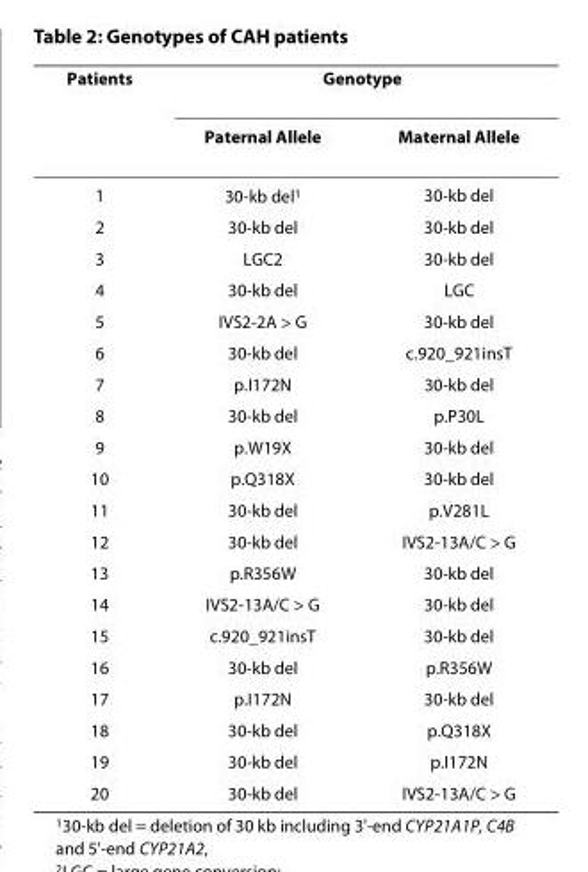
<table><thead><tr><td rowspan="2">Patients</td><td colspan="2">Genotype</td></tr><tr><td>Paternal Allele</td><td>Maternal Allele</td></tr></thead><tbody><tr><td>1</td><td>30-kb del<sup>1</sup></td><td>30-kb del</td></tr><tr><td>2</td><td>30-kb del</td><td>30-kb del</td></tr><tr><td>3</td><td>LGC2</td><td>30-kb del</td></tr><tr><td>4</td><td>30-kb del</td><td>LGC</td></tr><tr><td>5</td><td>IVS2-2A &gt; G</td><td>30-kb del</td></tr><tr><td>6</td><td>30-kb del</td><td>c.920_921insT</td></tr><tr><td>7</td><td>p.I172N</td><td>30-kb del</td></tr><tr><td>8</td><td>30-kb del</td><td>p.P30L</td></tr><tr><td>9</td><td>p.W19X</td><td>30-kb del</td></tr><tr><td>10</td><td>p.Q318X</td><td>30-kb del</td></tr><tr><td>11</td><td>30-kb del</td><td>p.V281L</td></tr><tr><td>12</td><td>30-kb del</td><td>IVS2-13A/C &gt; G</td></tr><tr><td>13</td><td>p.R356W</td><td>30-kb del</td></tr><tr><td>14</td><td>IVS2-13A/C &gt; G</td><td>30-kb del</td></tr><tr><td>15</td><td>c.920_921insT</td><td>30-kb del</td></tr><tr><td>16</td><td>30-kb del</td><td>p.R356W</td></tr><tr><td>17</td><td>p.I172N</td><td>30-kb del</td></tr><tr><td>18</td><td>30-kb del</td><td>p.Q318X</td></tr><tr><td>19</td><td>30-kb del</td><td>p.I172N</td></tr><tr><td>20</td><td>30-kb del</td><td>IVS2-13A/C &gt; G</td></tr></tbody></table>